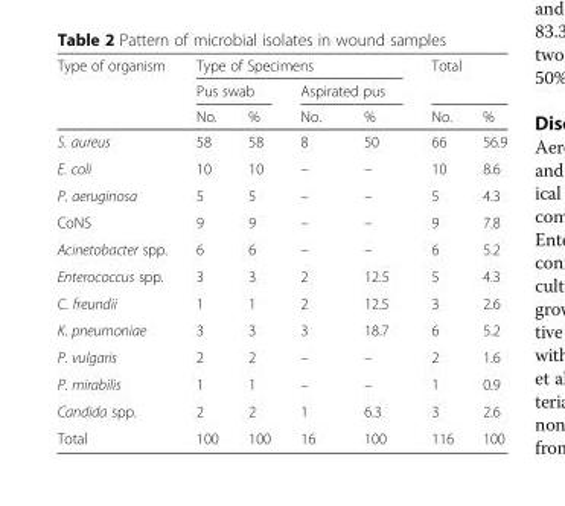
<table><thead><tr><td rowspan="3">Type of organism</td><td colspan="4">Type of Specimens</td><td rowspan="2" colspan="2">Total</td></tr><tr><td colspan="2">Pus swab</td><td colspan="2">Aspirated pus</td></tr><tr><td>No.</td><td>%</td><td>No.</td><td>%</td><td>No.</td><td>%</td></tr></thead><tbody><tr><td>S. aureus</td><td>58</td><td>58</td><td>8</td><td>50</td><td>66</td><td>56.9</td></tr><tr><td>E. coli</td><td>10</td><td>10</td><td>–</td><td>–</td><td>10</td><td>8.6</td></tr><tr><td>P. aeruginosa</td><td>5</td><td>5</td><td>–</td><td>–</td><td>5</td><td>4.3</td></tr><tr><td>CoNS</td><td>9</td><td>9</td><td>–</td><td>–</td><td>9</td><td>7.8</td></tr><tr><td>Acinetobacter spp.</td><td>6</td><td>6</td><td>–</td><td>–</td><td>6</td><td>5.2</td></tr><tr><td>Enterococcus spp.</td><td>3</td><td>3</td><td>2</td><td>12.5</td><td>5</td><td>4.3</td></tr><tr><td>C. freundii</td><td>1</td><td>1</td><td>2</td><td>12.5</td><td>3</td><td>2.6</td></tr><tr><td>K. pneumoniae</td><td>3</td><td>3</td><td>3</td><td>18.7</td><td>6</td><td>5.2</td></tr><tr><td>P. vulgaris</td><td>2</td><td>2</td><td>–</td><td>–</td><td>2</td><td>1.6</td></tr><tr><td>P. mirabilis</td><td>1</td><td>1</td><td>–</td><td>–</td><td>1</td><td>0.9</td></tr><tr><td>Candida spp.</td><td>2</td><td>2</td><td>1</td><td>6.3</td><td>3</td><td>2.6</td></tr><tr><td>Total</td><td>100</td><td>100</td><td>16</td><td>100</td><td>116</td><td>100</td></tr></tbody></table>